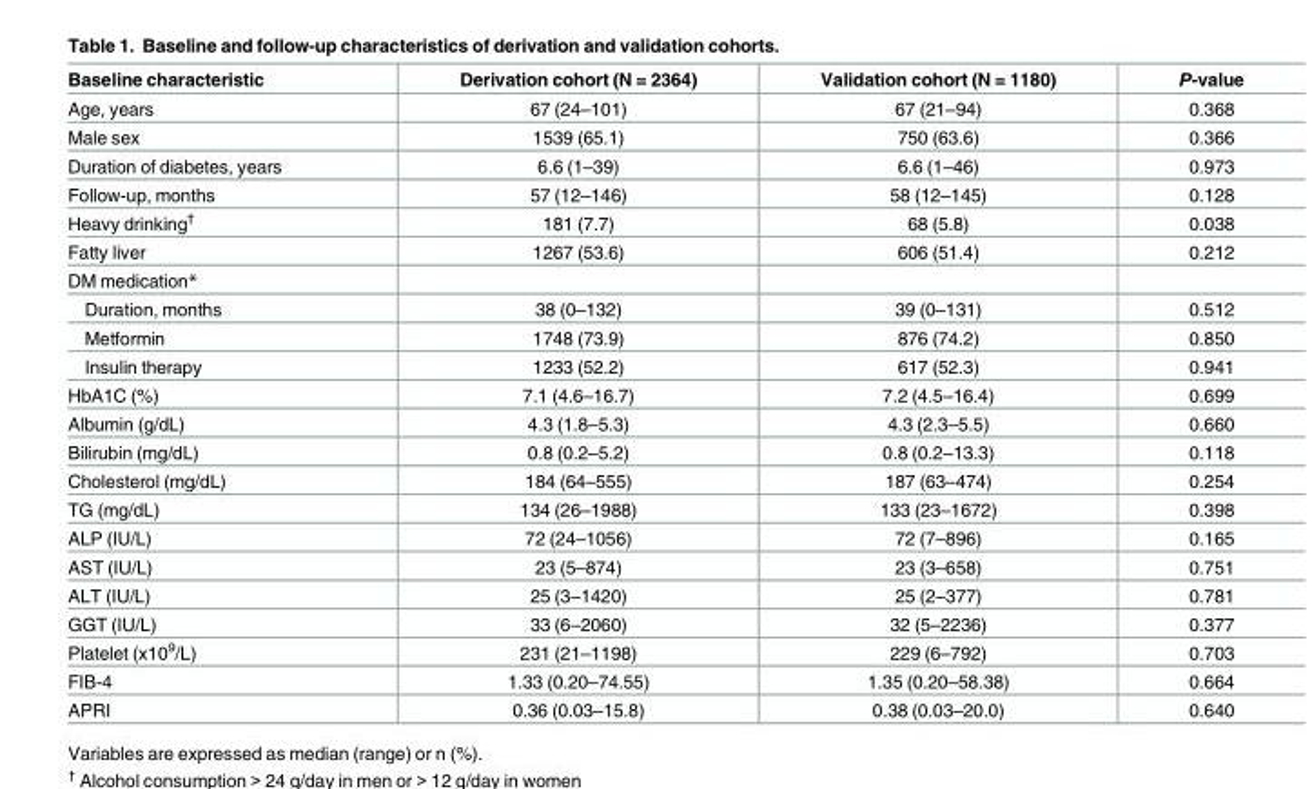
<table><thead><tr><td>Baseline characteristic</td><td>Derivation cohort (N = 2364)</td><td>Validation cohort (N = 1180)</td><td>P-value</td></tr></thead><tbody><tr><td>Age, years</td><td>67 (24–101)</td><td>67 (21–94)</td><td>0.368</td></tr><tr><td>Male sex</td><td>1539 (65.1)</td><td>750 (63.6)</td><td>0.366</td></tr><tr><td>Duration of diabetes, years</td><td>6.6 (1–39)</td><td>6.6 (1–46)</td><td>0.973</td></tr><tr><td>Follow-up, months</td><td>57 (12–146)</td><td>58 (12–145)</td><td>0.128</td></tr><tr><td>Heavy drinking<sup>†</sup></td><td>181 (7.7)</td><td>68 (5.8)</td><td>0.038</td></tr><tr><td>Fatty liver</td><td>1267 (53.6)</td><td>606 (51.4)</td><td>0.212</td></tr><tr><td colspan="4">DM medication*</td></tr><tr><td>Duration, months</td><td>38 (0–132)</td><td>39 (0–131)</td><td>0.512</td></tr><tr><td>Metformin</td><td>1748 (73.9)</td><td>876 (74.2)</td><td>0.850</td></tr><tr><td>Insulin therapy</td><td>1233 (52.2)</td><td>617 (52.3)</td><td>0.941</td></tr><tr><td>HbA1C (%)</td><td>7.1 (4.6–16.7)</td><td>7.2 (4.5–16.4)</td><td>0.699</td></tr><tr><td>Albumin (g/dL)</td><td>4.3 (1.8–5.3)</td><td>4.3 (2.3–5.5)</td><td>0.660</td></tr><tr><td>Bilirubin (mg/dL)</td><td>0.8 (0.2–5.2)</td><td>0.8 (0.2–13.3)</td><td>0.118</td></tr><tr><td>Cholesterol (mg/dL)</td><td>184 (64–555)</td><td>187 (63–474)</td><td>0.254</td></tr><tr><td>TG (mg/dL)</td><td>134 (26–1988)</td><td>133 (23–1672)</td><td>0.398</td></tr><tr><td>ALP (IU/L)</td><td>72 (24–1056)</td><td>72 (7–896)</td><td>0.165</td></tr><tr><td>AST (IU/L)</td><td>23 (5–874)</td><td>23 (3–658)</td><td>0.751</td></tr><tr><td>ALT (IU/L)</td><td>25 (3–1420)</td><td>25 (2–377)</td><td>0.781</td></tr><tr><td>GGT (IU/L)</td><td>33 (6–2060)</td><td>32 (5–2236)</td><td>0.377</td></tr><tr><td>Platelet (x10<sup>9</sup>/L)</td><td>231 (21–1198)</td><td>229 (6–792)</td><td>0.703</td></tr><tr><td>FIB-4</td><td>1.33 (0.20–74.55)</td><td>1.35 (0.20–58.38)</td><td>0.664</td></tr><tr><td>APRI</td><td>0.36 (0.03–15.8)</td><td>0.38 (0.03–20.0)</td><td>0.640</td></tr></tbody></table>